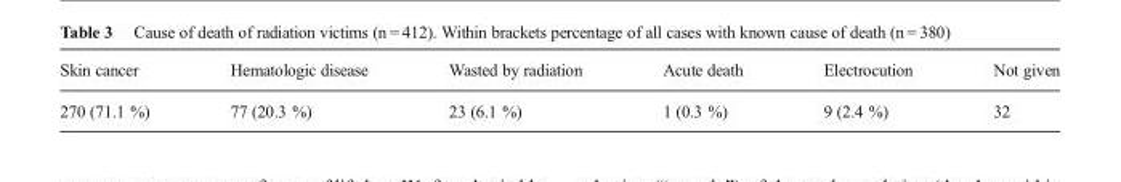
<table><thead><tr><td>Skin cancer</td><td>Hematologic disease</td><td>Wasted by radiation</td><td>Acute death</td><td>Electrocution</td><td>Not given</td></tr></thead><tbody><tr><td>270 (71.1 %)</td><td>77 (20.3 %)</td><td>23 (6.1 %)</td><td>1 (0.3 %)</td><td>9 (2.4 %)</td><td>32</td></tr></tbody></table>